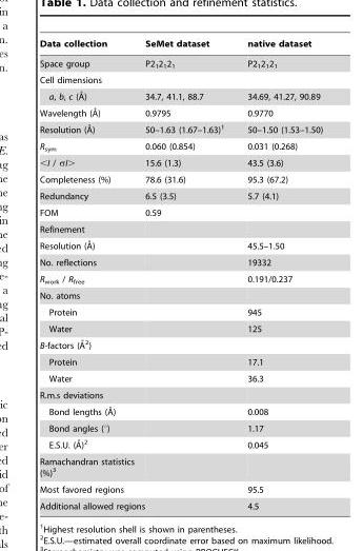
<table><thead><tr><td>Data collection</td><td>SeMet dataset</td><td>native dataset</td></tr></thead><tbody><tr><td>Space group</td><td>P2<sub>1</sub>2<sub>1</sub>2<sub>1</sub></td><td>P2<sub>1</sub>2<sub>1</sub>2<sub>1</sub></td></tr><tr><td colspan="3">Cell dimensions</td></tr><tr><td>a, b, c (A˚)</td><td>34.7, 41.1, 88.7</td><td>34.69, 41.27, 90.89</td></tr><tr><td>Wavelength (A˚)</td><td>0.9795</td><td>0.9770</td></tr><tr><td>Resolution (A˚)</td><td>50–1.63 (1.67–1.63)<sup>1</sup></td><td>50–1.50 (1.53–1.50)</td></tr><tr><td>R<sub>sym</sub></td><td>0.060 (0.854)</td><td>0.031 (0.268)</td></tr><tr><td>&lt;I / σI&gt;</td><td>15.6 (1.3)</td><td>43.5 (3.6)</td></tr><tr><td>Completeness (%)</td><td>78.6 (31.6)</td><td>95.3 (67.2)</td></tr><tr><td>Redundancy</td><td>6.5 (3.5)</td><td>5.7 (4.1)</td></tr><tr><td>FOM</td><td>0.59</td><td></td></tr><tr><td colspan="3">Refinement</td></tr><tr><td>Resolution (A˚)</td><td></td><td>45.5–1.50</td></tr><tr><td>No. reflections</td><td></td><td>19332</td></tr><tr><td>R<sub>work</sub> / R<sub>free</sub></td><td></td><td>0.191/0.237</td></tr><tr><td colspan="3">No. atoms</td></tr><tr><td>Protein</td><td></td><td>945</td></tr><tr><td>Water</td><td></td><td>125</td></tr><tr><td colspan="3">B-factors (A˚2)</td></tr><tr><td>Protein</td><td></td><td>17.1</td></tr><tr><td>Water</td><td></td><td>36.3</td></tr><tr><td colspan="3">R.m.s deviations</td></tr><tr><td>Bond lengths (A˚)</td><td></td><td>0.008</td></tr><tr><td>Bond angles (°)</td><td></td><td>1.17</td></tr><tr><td>E.S.U. (A˚)2</td><td></td><td>0.045</td></tr><tr><td colspan="3">Ramachandran statistics (%)<sup>3</sup></td></tr><tr><td>Most favored regions</td><td></td><td>95.5</td></tr><tr><td>Additional allowed regions</td><td></td><td>4.5</td></tr></tbody></table>